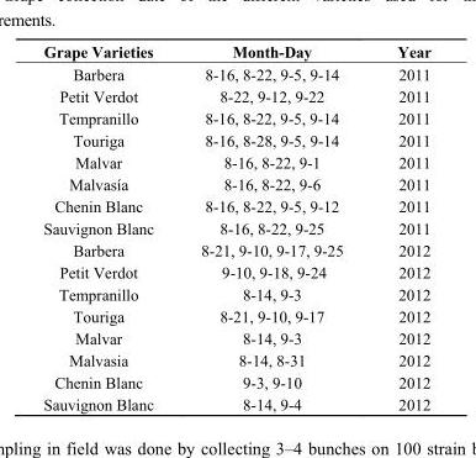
<table><thead><tr><td>Grape Varieties</td><td>Month-Day</td><td>Year</td></tr></thead><tbody><tr><td>Barbera</td><td>8-16, 8-22, 9-5, 9-14</td><td>2011</td></tr><tr><td>Petit Verdot</td><td>8-22, 9-12, 9-22</td><td>2011</td></tr><tr><td>Tempranillo</td><td>8-16, 8-22, 9-5, 9-14</td><td>2011</td></tr><tr><td>Touriga</td><td>8-16, 8-28, 9-5, 9-14</td><td>2011</td></tr><tr><td>Malvar</td><td>8-16, 8-22, 9-1</td><td>2011</td></tr><tr><td>Malvasía</td><td>8-16, 8-22, 9-6</td><td>2011</td></tr><tr><td>Chenin Blanc</td><td>8-16, 8-22, 9-5, 9-12</td><td>2011</td></tr><tr><td>Sauvignon Blanc</td><td>8-16, 8-22, 9-25</td><td>2011</td></tr><tr><td>Barbera</td><td>8-21, 9-10, 9-17, 9-25</td><td>2012</td></tr><tr><td>Petit Verdot</td><td>9-10, 9-18, 9-24</td><td>2012</td></tr><tr><td>Tempranillo</td><td>8-14, 9-3</td><td>2012</td></tr><tr><td>Touriga</td><td>8-21, 9-10, 9-17</td><td>2012</td></tr><tr><td>Malvar</td><td>8-14, 9-3</td><td>2012</td></tr><tr><td>Malvasia</td><td>8-14, 8-31</td><td>2012</td></tr><tr><td>Chenin Blanc</td><td>9-3, 9-10</td><td>2012</td></tr><tr><td>Sauvignon Blanc</td><td>8-14, 9-4</td><td>2012</td></tr></tbody></table>